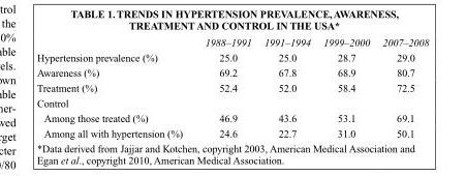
<table><thead><tr><td></td><td>1988–1991</td><td>1991–1994</td><td>1999–2000</td><td>2007–2008</td></tr></thead><tbody><tr><td>Hypertension prevalence (%)</td><td>25.0</td><td>25.0</td><td>28.7</td><td>29.0</td></tr><tr><td>Awareness (%)</td><td>69.2</td><td>67.8</td><td>68.9</td><td>80.7</td></tr><tr><td>Treatment (%)</td><td>52.4</td><td>52.0</td><td>58.4</td><td>72.5</td></tr><tr><td colspan="5">Control</td></tr><tr><td>Among those treated (%)</td><td>46.9</td><td>43.6</td><td>53.1</td><td>69.1</td></tr><tr><td>Among all with hypertension (%)</td><td>24.6</td><td>22.7</td><td>31.0</td><td>50.1</td></tr></tbody></table>